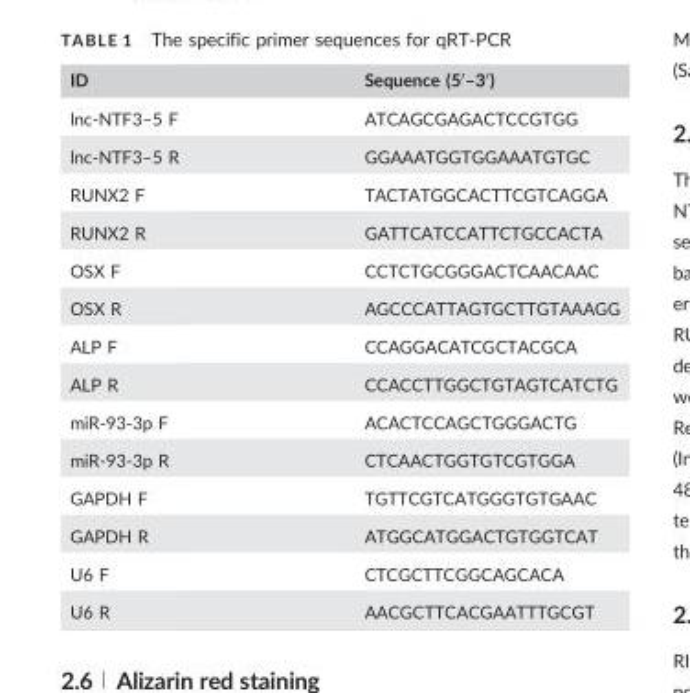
<table><thead><tr><td>ID</td><td>Sequence (5′–3′)</td></tr></thead><tbody><tr><td>lnc-NTF3–5 F</td><td>ATCAGCGAGACTCCGTGG</td></tr><tr><td>lnc-NTF3–5 R</td><td>GGAAATGGTGGAAATGTGC</td></tr><tr><td>RUNX2 F</td><td>TACTATGGCACTTCGTCAGGA</td></tr><tr><td>RUNX2 R</td><td>GATTCATCCATTCTGCCACTA</td></tr><tr><td>OSX F</td><td>CCTCTGCGGGACTCAACAAC</td></tr><tr><td>OSX R</td><td>AGCCCATTAGTGCTTGTAAAGG</td></tr><tr><td>ALP F</td><td>CCAGGACATCGCTACGCA</td></tr><tr><td>ALP R</td><td>CCACCTTGGCTGTAGTCATCTG</td></tr><tr><td>miR-93-3p F</td><td>ACACTCCAGCTGGGACTG</td></tr><tr><td>miR-93-3p R</td><td>CTCAACTGGTGTCGTGGA</td></tr><tr><td>GAPDH F</td><td>TGTTCGTCATGGGTGTGAAC</td></tr><tr><td>GAPDH R</td><td>ATGGCATGGACTGTGGTCAT</td></tr><tr><td>U6 F</td><td>CTCGCTTCGGCAGCACA</td></tr><tr><td>U6 R</td><td>AACGCTTCACGAATTTGCGT</td></tr></tbody></table>